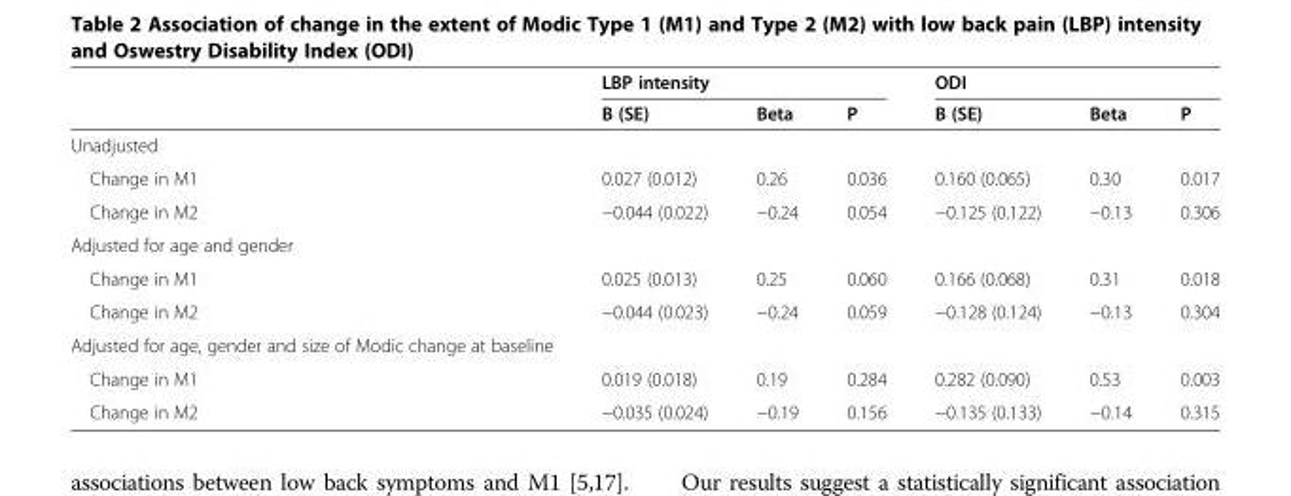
<table><thead><tr><td rowspan="2"></td><td colspan="3">LBP intensity</td><td colspan="3">ODI</td></tr><tr><td>B (SE)</td><td>Beta</td><td>P</td><td>B (SE)</td><td>Beta</td><td>P</td></tr></thead><tbody><tr><td colspan="7">Unadjusted</td></tr><tr><td>Change in M1</td><td>0.027 (0.012)</td><td>0.26</td><td>0.036</td><td>0.160 (0.065)</td><td>0.30</td><td>0.017</td></tr><tr><td>Change in M2</td><td>−0.044 (0.022)</td><td>−0.24</td><td>0.054</td><td>−0.125 (0.122)</td><td>−0.13</td><td>0.306</td></tr><tr><td colspan="7">Adjusted for age and gender</td></tr><tr><td>Change in M1</td><td>0.025 (0.013)</td><td>0.25</td><td>0.060</td><td>0.166 (0.068)</td><td>0.31</td><td>0.018</td></tr><tr><td>Change in M2</td><td>−0.044 (0.023)</td><td>−0.24</td><td>0.059</td><td>−0.128 (0.124)</td><td>−0.13</td><td>0.304</td></tr><tr><td colspan="7">Adjusted for age, gender and size of Modic change at baseline</td></tr><tr><td>Change in M1</td><td>0.019 (0.018)</td><td>0.19</td><td>0.284</td><td>0.282 (0.090)</td><td>0.53</td><td>0.003</td></tr><tr><td>Change in M2</td><td>−0.035 (0.024)</td><td>−0.19</td><td>0.156</td><td>−0.135 (0.133)</td><td>−0.14</td><td>0.315</td></tr></tbody></table>